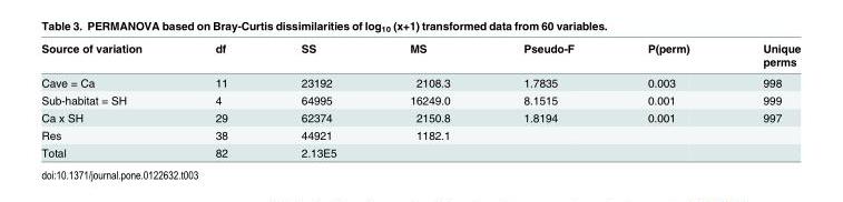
<table><thead><tr><td rowspan="2">Source of variation</td><td rowspan="2">df</td><td rowspan="2">SS</td><td rowspan="2">MS</td><td rowspan="2">Pseudo-F</td><td rowspan="2">P(perm)</td><td rowspan="2">Unique perms</td></tr><tr></tr></thead><tbody><tr><td>Cave = Ca</td><td>11</td><td>23192</td><td>2108.3</td><td>1.7835</td><td>0.003</td><td>998</td></tr><tr><td>Sub-habitat = SH</td><td>4</td><td>64995</td><td>16249.0</td><td>8.1515</td><td>0.001</td><td>999</td></tr><tr><td>Ca x SH</td><td>29</td><td>62374</td><td>2150.8</td><td>1.8194</td><td>0.001</td><td>997</td></tr><tr><td>Res</td><td>38</td><td>44921</td><td>1182.1</td><td></td><td></td><td></td></tr><tr><td>Total</td><td>82</td><td>2.13E5</td><td></td><td></td><td></td><td></td></tr></tbody></table>